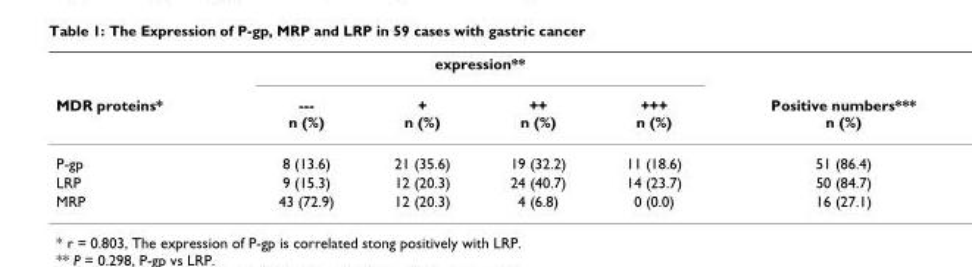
<table><thead><tr><td rowspan="2">MDR proteins*</td><td colspan="4">expression**</td><td rowspan="2">Positive numbers*** n (%)</td></tr><tr><td>--- n (%)</td><td>+ n (%)</td><td>++ n (%)</td><td>+++ n (%)</td></tr></thead><tbody><tr><td>P-gp</td><td>8 (13.6)</td><td>21 (35.6)</td><td>19 (32.2)</td><td>11 (18.6)</td><td>51 (86.4)</td></tr><tr><td>LRP</td><td>9 (15.3)</td><td>12 (20.3)</td><td>24 (40.7)</td><td>14 (23.7)</td><td>50 (84.7)</td></tr><tr><td>MRP</td><td>43 (72.9)</td><td>12 (20.3)</td><td>4 (6.8)</td><td>0 (0.0)</td><td>16 (27.1)</td></tr></tbody></table>